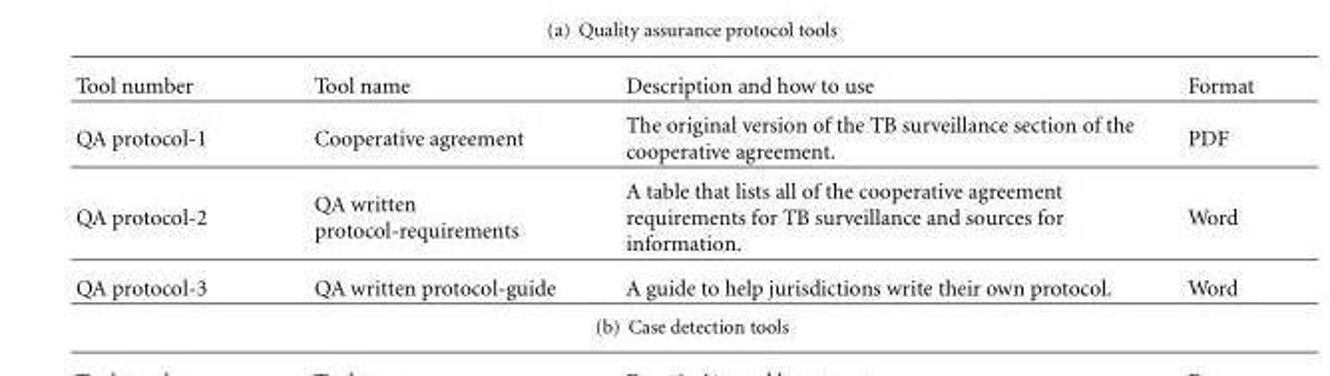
<table><thead><tr><td>Tool number</td><td>Tool name</td><td>Description and how to use</td><td>Format</td></tr></thead><tbody><tr><td>QA protocol-1</td><td>Cooperative agreement</td><td>The original version of the TB surveillance section of the cooperative agreement.</td><td>PDF</td></tr><tr><td>QA protocol-2</td><td>QA written protocol-requirements</td><td>A table that lists all of the cooperative agreement requirements for TB surveillance and sources for information.</td><td>Word</td></tr><tr><td>QA protocol-3</td><td>QA written protocol-guide</td><td>A guide to help jurisdictions write their own protocol.</td><td>Word</td></tr></tbody></table>